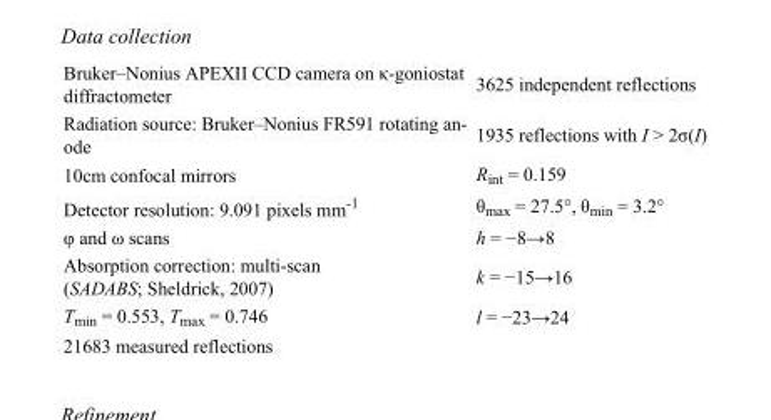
<table><tbody><tr><td>Bruker–Nonius APEXII CCD camera on κ-goniostat diffractometer</td><td>3625 independent reflections</td></tr><tr><td>Radiation source: Bruker–Nonius FR591 rotating an- ode</td><td>1935 reflections with I &gt; 2σ(I)</td></tr><tr><td>10cm confocal mirrors</td><td>R<sub>int</sub> = 0.159</td></tr><tr><td>Detector resolution: 9.091 pixels mm<sup>-1</sup></td><td>θ<sub>max</sub> = 27.5°, θ<sub>min</sub> = 3.2°</td></tr><tr><td>φ and ω scans</td><td>h = −8→8</td></tr><tr><td>Absorption correction: multi-scan (SADABS; Sheldrick, 2007)</td><td>k = −15→16</td></tr><tr><td>T<sub>min</sub> = 0.553, T<sub>max</sub> = 0.746</td><td>l = −23→24</td></tr><tr><td>21683 measured reflections</td><td></td></tr></tbody></table>